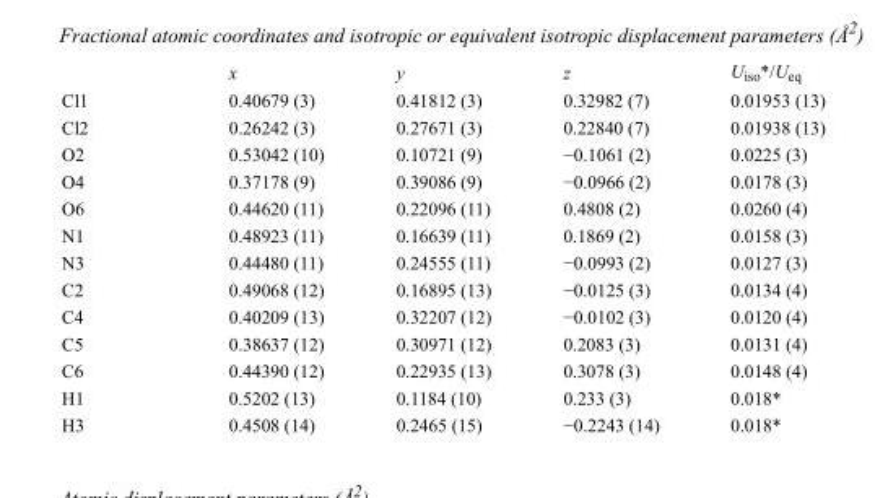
<table><thead><tr><td></td><td>x</td><td>y</td><td>z</td><td>U<sub>iso</sub>*/U<sub>eq</sub></td></tr></thead><tbody><tr><td>Cl1</td><td>0.40679 (3)</td><td>0.41812 (3)</td><td>0.32982 (7)</td><td>0.01953 (13)</td></tr><tr><td>Cl2</td><td>0.26242 (3)</td><td>0.27671 (3)</td><td>0.22840 (7)</td><td>0.01938 (13)</td></tr><tr><td>O2</td><td>0.53042 (10)</td><td>0.10721 (9)</td><td>−0.1061 (2)</td><td>0.0225 (3)</td></tr><tr><td>O4</td><td>0.37178 (9)</td><td>0.39086 (9)</td><td>−0.0966 (2)</td><td>0.0178 (3)</td></tr><tr><td>O6</td><td>0.44620 (11)</td><td>0.22096 (11)</td><td>0.4808 (2)</td><td>0.0260 (4)</td></tr><tr><td>N1</td><td>0.48923 (11)</td><td>0.16639 (11)</td><td>0.1869 (2)</td><td>0.0158 (3)</td></tr><tr><td>N3</td><td>0.44480 (11)</td><td>0.24555 (11)</td><td>−0.0993 (2)</td><td>0.0127 (3)</td></tr><tr><td>C2</td><td>0.49068 (12)</td><td>0.16895 (13)</td><td>−0.0125 (3)</td><td>0.0134 (4)</td></tr><tr><td>C4</td><td>0.40209 (13)</td><td>0.32207 (12)</td><td>−0.0102 (3)</td><td>0.0120 (4)</td></tr><tr><td>C5</td><td>0.38637 (12)</td><td>0.30971 (12)</td><td>0.2083 (3)</td><td>0.0131 (4)</td></tr><tr><td>C6</td><td>0.44390 (12)</td><td>0.22935 (13)</td><td>0.3078 (3)</td><td>0.0148 (4)</td></tr><tr><td>H1</td><td>0.5202 (13)</td><td>0.1184 (10)</td><td>0.233 (3)</td><td>0.018*</td></tr><tr><td>H3</td><td>0.4508 (14)</td><td>0.2465 (15)</td><td>−0.2243 (14)</td><td>0.018*</td></tr></tbody></table>